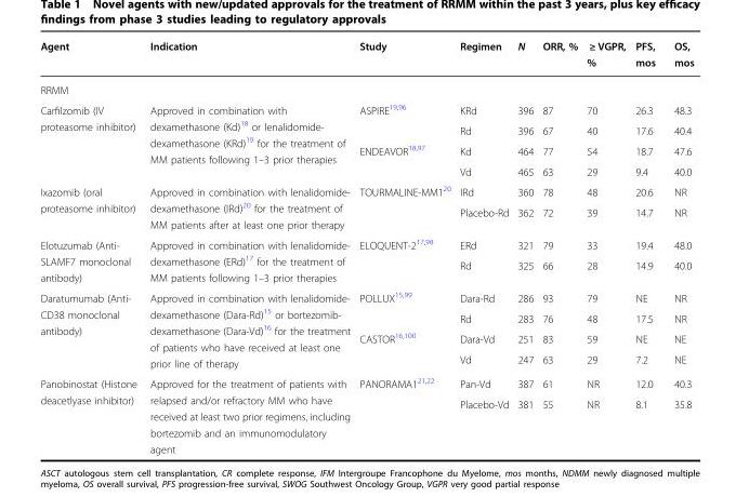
<table><thead><tr><td>Agent</td><td>Indication</td><td>Study</td><td>Regimen</td><td>N</td><td>ORR, %</td><td>≥ VGPR, %</td><td>PFS, mos</td><td>OS, mos</td></tr></thead><tbody><tr><td colspan="9">RRMM</td></tr><tr><td rowspan="4">Carfilzomib (IV proteasome inhibitor)</td><td rowspan="4">Approved in combination with dexamethasone (Kd)<sup>18</sup> or lenalidomide- dexamethasone (KRd)<sup>19</sup> for the treatment of MM patients following 1–3 prior therapies</td><td rowspan="2">ASPIRE<sup>19,96</sup></td><td>KRd</td><td>396</td><td>87</td><td>70</td><td>26.3</td><td>48.3</td></tr><tr><td>Rd</td><td>396</td><td>67</td><td>40</td><td>17.6</td><td>40.4</td></tr><tr><td rowspan="2">ENDEAVOR<sup>18,97</sup></td><td>Kd</td><td>464</td><td>77</td><td>54</td><td>18.7</td><td>47.6</td></tr><tr><td>Vd</td><td>465</td><td>63</td><td>29</td><td>9.4</td><td>40.0</td></tr><tr><td rowspan="2">Ixazomib (oral proteasome inhibitor)</td><td rowspan="2">Approved in combination with lenalidomide- dexamethasone (IRd)<sup>20</sup> for the treatment of MM patients after at least one prior therapy</td><td rowspan="2">TOURMALINE-MM1<sup>20</sup></td><td>IRd</td><td>360</td><td>78</td><td>48</td><td>20.6</td><td>NR</td></tr><tr><td>Placebo-Rd</td><td>362</td><td>72</td><td>39</td><td>14.7</td><td>NR</td></tr><tr><td rowspan="2">Elotuzumab (Anti- SLAMF7 monoclonal antibody)</td><td rowspan="2">Approved in combination with lenalidomide- dexamethasone (ERd)<sup>17</sup> for the treatment of MM patients following 1–3 prior therapies</td><td rowspan="2">ELOQUENT-2<sup>17,98</sup></td><td>ERd</td><td>321</td><td>79</td><td>33</td><td>19.4</td><td>48.0</td></tr><tr><td>Rd</td><td>325</td><td>66</td><td>28</td><td>14.9</td><td>40.0</td></tr><tr><td rowspan="4">Daratumumab (Anti- CD38 monoclonal antibody)</td><td rowspan="4">Approved in combination with lenalidomide- dexamethasone (Dara-Rd)<sup>15</sup> or bortezomib- dexamethasone (Dara-Vd)<sup>16</sup> for the treatment of patients who have received at least one prior line of therapy</td><td rowspan="2">POLLUX<sup>15,99</sup></td><td>Dara-Rd</td><td>286</td><td>93</td><td>79</td><td>NE</td><td>NR</td></tr><tr><td>Rd</td><td>283</td><td>76</td><td>48</td><td>17.5</td><td>NR</td></tr><tr><td rowspan="2">CASTOR<sup>16,100</sup></td><td>Dara-Vd</td><td>251</td><td>83</td><td>59</td><td>NE</td><td>NE</td></tr><tr><td>Vd</td><td>247</td><td>63</td><td>29</td><td>7.2</td><td>NE</td></tr><tr><td rowspan="2">Panobinostat (Histone deacetlyase inhibitor)</td><td rowspan="2">Approved for the treatment of patients with relapsed and/or refractory MM who have received at least two prior regimens, including bortezomib and an immunomodulatory agent</td><td rowspan="2">PANORAMA1<sup>21,22</sup></td><td>Pan-Vd</td><td>387</td><td>61</td><td>NR</td><td>12.0</td><td>40.3</td></tr><tr><td>Placebo-Vd</td><td>381</td><td>55</td><td>NR</td><td>8.1</td><td>35.8</td></tr></tbody></table>